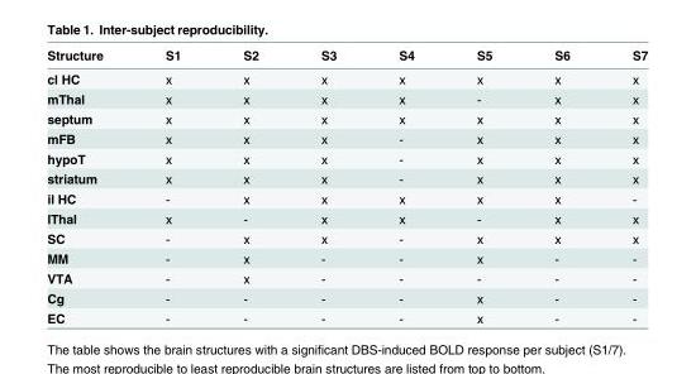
<table><thead><tr><td>Structure</td><td>S1</td><td>S2</td><td>S3</td><td>S4</td><td>S5</td><td>S6</td><td>S7</td></tr></thead><tbody><tr><td>cl HC</td><td>x</td><td>x</td><td>x</td><td>x</td><td>x</td><td>x</td><td>x</td></tr><tr><td>mThal</td><td>x</td><td>x</td><td>x</td><td>x</td><td>-</td><td>x</td><td>x</td></tr><tr><td>septum</td><td>x</td><td>x</td><td>x</td><td>x</td><td>x</td><td>x</td><td>x</td></tr><tr><td>mFB</td><td>x</td><td>x</td><td>x</td><td>-</td><td>x</td><td>x</td><td>x</td></tr><tr><td>hypoT</td><td>x</td><td>x</td><td>x</td><td>-</td><td>x</td><td>x</td><td>x</td></tr><tr><td>striatum</td><td>x</td><td>x</td><td>x</td><td>-</td><td>x</td><td>x</td><td>x</td></tr><tr><td>il HC</td><td>-</td><td>x</td><td>x</td><td>x</td><td>x</td><td>x</td><td>-</td></tr><tr><td>lThal</td><td>x</td><td>-</td><td>x</td><td>x</td><td>-</td><td>x</td><td>x</td></tr><tr><td>SC</td><td>-</td><td>x</td><td>x</td><td>-</td><td>x</td><td>x</td><td>x</td></tr><tr><td>MM</td><td>-</td><td>x</td><td>-</td><td>-</td><td>x</td><td>-</td><td>-</td></tr><tr><td>VTA</td><td>-</td><td>x</td><td>-</td><td>-</td><td>-</td><td>-</td><td>-</td></tr><tr><td>Cg</td><td>-</td><td>-</td><td>-</td><td>-</td><td>x</td><td>-</td><td>-</td></tr><tr><td>EC</td><td>-</td><td>-</td><td>-</td><td>-</td><td>x</td><td>-</td><td>-</td></tr></tbody></table>